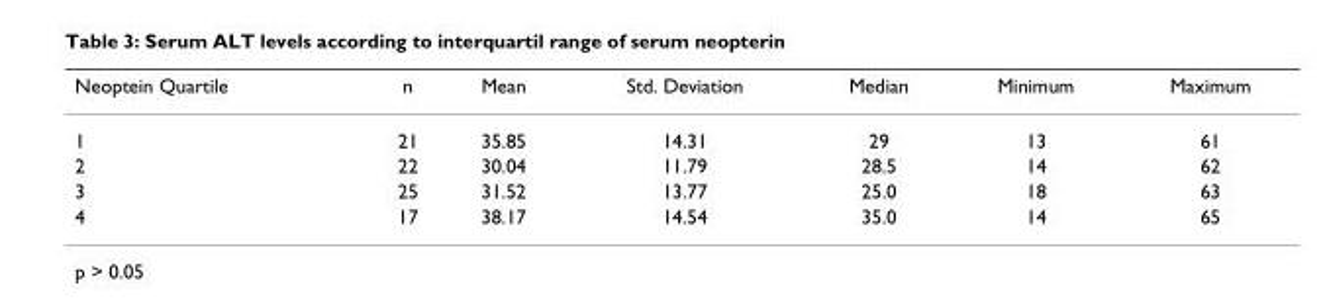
<table><thead><tr><td>Neoptein Quartile</td><td>n</td><td>Mean</td><td>Std. Deviation</td><td>Median</td><td>Minimum</td><td>Maximum</td></tr></thead><tbody><tr><td>1</td><td>21</td><td>35.85</td><td>14.31</td><td>29</td><td>13</td><td>61</td></tr><tr><td>2</td><td>22</td><td>30.04</td><td>11.79</td><td>28.5</td><td>14</td><td>62</td></tr><tr><td>3</td><td>25</td><td>31.52</td><td>13.77</td><td>25.0</td><td>18</td><td>63</td></tr><tr><td>4</td><td>17</td><td>38.17</td><td>14.54</td><td>35.0</td><td>14</td><td>65</td></tr></tbody></table>